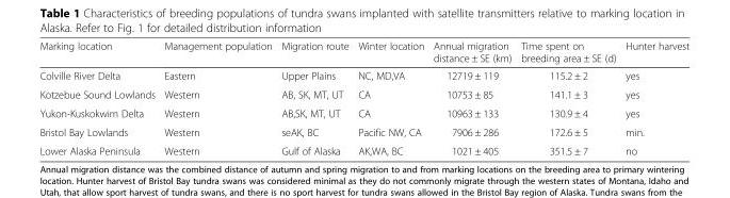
<table><thead><tr><td>Marking location</td><td>Management population</td><td>Migration route</td><td>Winter location</td><td>Annual migration distance ± SE (km)</td><td>Time spent on breeding area ± SE (d)</td><td>Hunter harvest</td></tr></thead><tbody><tr><td>Colville River Delta</td><td>Eastern</td><td>Upper Plains</td><td>NC, MD,VA</td><td>12719 ± 119</td><td>115.2 ± 2</td><td>yes</td></tr><tr><td>Kotzebue Sound Lowlands</td><td>Western</td><td>AB, SK, MT, UT</td><td>CA</td><td>10753 ± 85</td><td>141.1 ± 3</td><td>yes</td></tr><tr><td>Yukon-Kuskokwim Delta</td><td>Western</td><td>AB,SK, MT, UT</td><td>CA</td><td>10963 ± 133</td><td>130.9 ± 4</td><td>yes</td></tr><tr><td>Bristol Bay Lowlands</td><td>Western</td><td>seAK, BC</td><td>Pacific NW, CA</td><td>7906 ± 286</td><td>172.6 ± 5</td><td>min.</td></tr><tr><td>Lower Alaska Peninsula</td><td>Western</td><td>Gulf of Alaska</td><td>AK,WA, BC</td><td>1021 ± 405</td><td>351.5 ± 7</td><td>no</td></tr></tbody></table>